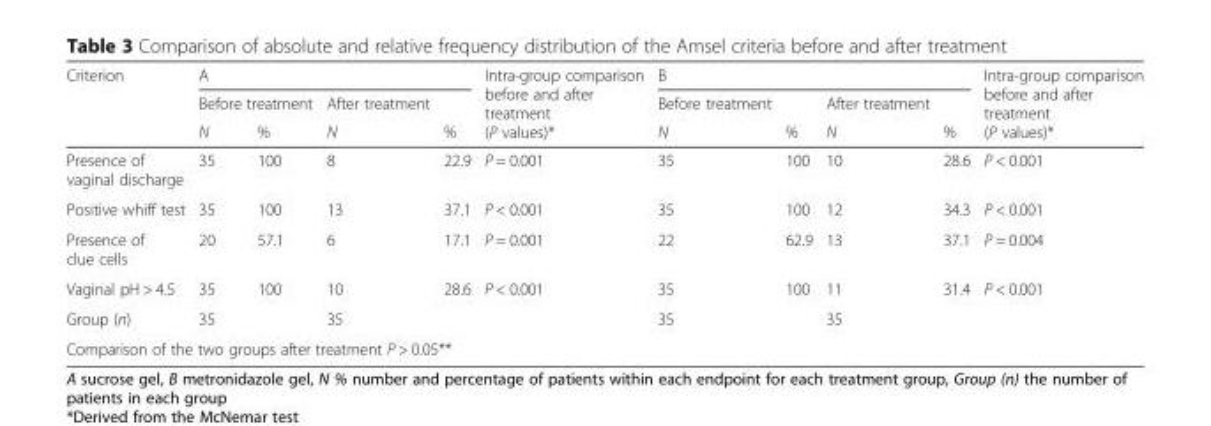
<table><thead><tr><td rowspan="3">Criterion</td><td colspan="4">A</td><td rowspan="3">Intra-group comparison before and after treatment (P values)*</td><td colspan="4">B</td><td rowspan="3">Intra-group comparison before and after treatment (P values)*</td></tr><tr><td colspan="2">Before treatment</td><td rowspan="2">After treatment N</td><td rowspan="2">%</td><td rowspan="2">Before treatment N</td><td rowspan="2">%</td><td rowspan="2">After treatment N</td><td rowspan="2">%</td></tr><tr><td>N</td><td>%</td></tr></thead><tbody><tr><td>Presence of vaginal discharge</td><td>35</td><td>100</td><td>8</td><td>22.9</td><td>P = 0.001</td><td>35</td><td>100</td><td>10</td><td>28.6</td><td>P &lt; 0.001</td></tr><tr><td>Positive whiff test</td><td>35</td><td>100</td><td>13</td><td>37.1</td><td>P &lt; 0.001</td><td>35</td><td>100</td><td>12</td><td>34.3</td><td>P &lt; 0.001</td></tr><tr><td>Presence of clue cells</td><td>20</td><td>57.1</td><td>6</td><td>17.1</td><td>P = 0.001</td><td>22</td><td>62.9</td><td>13</td><td>37.1</td><td>P = 0.004</td></tr><tr><td>Vaginal pH &gt; 4.5</td><td>35</td><td>100</td><td>10</td><td>28.6</td><td>P &lt; 0.001</td><td>35</td><td>100</td><td>11</td><td>31.4</td><td>P &lt; 0.001</td></tr><tr><td>Group (n)</td><td>35</td><td></td><td>35</td><td></td><td></td><td>35</td><td></td><td>35</td><td></td><td></td></tr><tr><td colspan="11">Comparison of the two groups after treatment P &gt; 0.05**</td></tr></tbody></table>